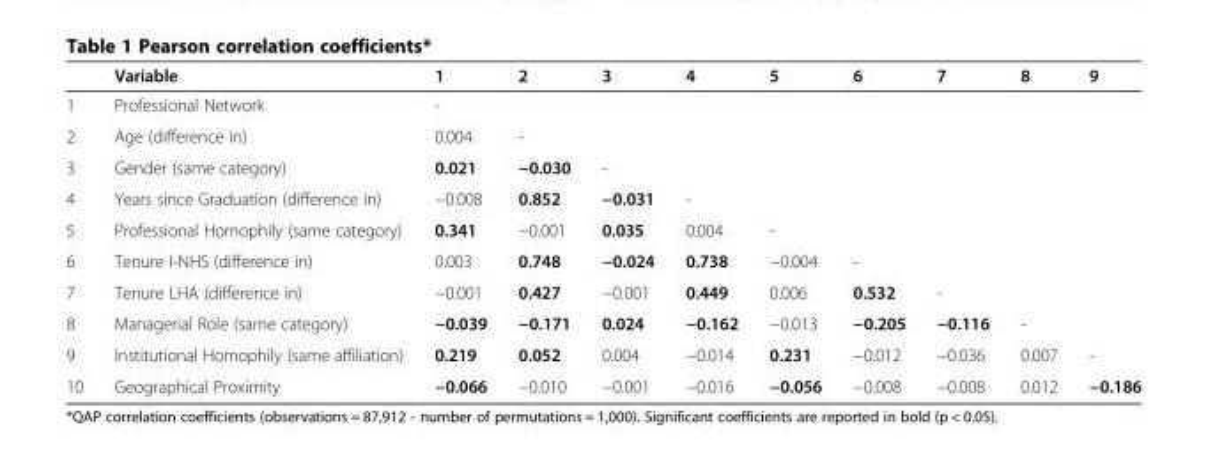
<table><thead><tr><td></td><td>Variable</td><td>1</td><td>2</td><td>3</td><td>4</td><td>5</td><td>6</td><td>7</td><td>8</td><td>9</td></tr></thead><tbody><tr><td>1</td><td>Professional Network</td><td>-</td><td></td><td></td><td></td><td></td><td></td><td></td><td></td><td></td></tr><tr><td>2</td><td>Age (difference in)</td><td>0.004</td><td>-</td><td></td><td></td><td></td><td></td><td></td><td></td><td></td></tr><tr><td>3</td><td>Gender (same category)</td><td>0.021</td><td>−0.030</td><td>-</td><td></td><td></td><td></td><td></td><td></td><td></td></tr><tr><td>4</td><td>Years since Graduation (difference in)</td><td>−0.008</td><td>0.852</td><td>−0.031</td><td>-</td><td></td><td></td><td></td><td></td><td></td></tr><tr><td>5</td><td>Professional Homophily (same category)</td><td>0.341</td><td>−0.001</td><td>0.035</td><td>0.004</td><td>-</td><td></td><td></td><td></td><td></td></tr><tr><td>6</td><td>Tenure I-NHS (difference in)</td><td>0.003</td><td>0.748</td><td>−0.024</td><td>0.738</td><td>−0.004</td><td>-</td><td></td><td></td><td></td></tr><tr><td>7</td><td>Tenure LHA (difference in)</td><td>−0.001</td><td>0.427</td><td>−0.001</td><td>0.449</td><td>0.006</td><td>0.532</td><td>-</td><td></td><td></td></tr><tr><td>8</td><td>Managerial Role (same category)</td><td>−0.039</td><td>−0.171</td><td>0.024</td><td>−0.162</td><td>−0.013</td><td>−0.205</td><td>−0.116</td><td>-</td><td></td></tr><tr><td>9</td><td>Institutional Homophily (same affiliation)</td><td>0.219</td><td>0.052</td><td>0.004</td><td>−0.014</td><td>0.231</td><td>−0.012</td><td>−0.036</td><td>0.007</td><td>-</td></tr><tr><td>10</td><td>Geographical Proximity</td><td>−0.066</td><td>−0.010</td><td>−0.001</td><td>−0.016</td><td>−0.056</td><td>−0.008</td><td>−0.008</td><td>0.012</td><td>−0.186</td></tr></tbody></table>